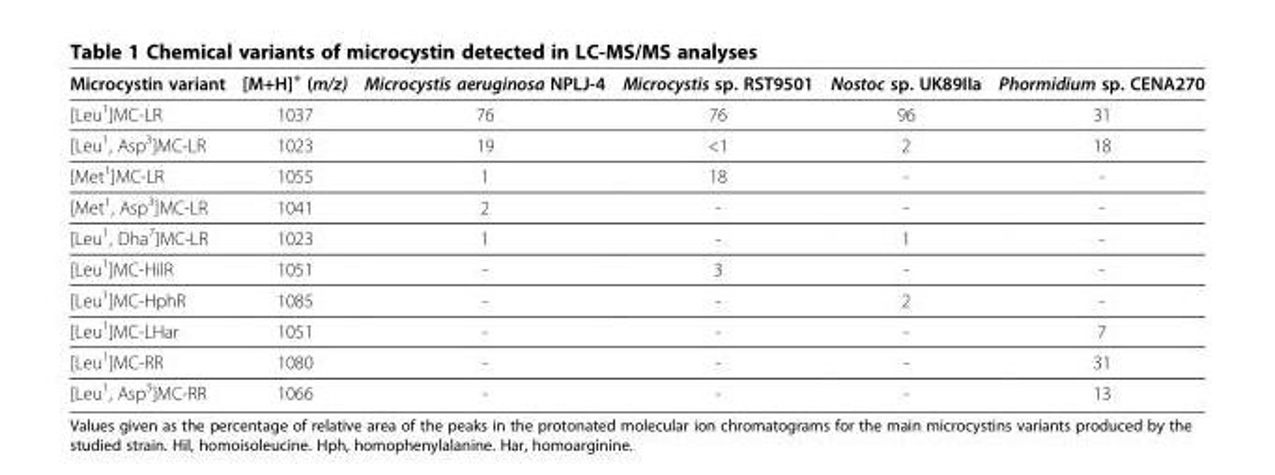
<table><thead><tr><td>Microcystin variant</td><td>[M+H]<sup>+</sup> (m/z)</td><td>Microcystis aeruginosa NPLJ-4</td><td>Microcystis sp. RST9501</td><td>Nostoc sp. UK89IIa</td><td>Phormidium sp. CENA270</td></tr></thead><tbody><tr><td>[Leu<sup>1</sup>]MC-LR</td><td>1037</td><td>76</td><td>76</td><td>96</td><td>31</td></tr><tr><td>[Leu<sup>1</sup>, Asp<sup>3</sup>]MC-LR</td><td>1023</td><td>19</td><td>&lt;1</td><td>2</td><td>18</td></tr><tr><td>[Met<sup>1</sup>]MC-LR</td><td>1055</td><td>1</td><td>18</td><td>-</td><td>-</td></tr><tr><td>[Met<sup>1</sup>, Asp<sup>3</sup>]MC-LR</td><td>1041</td><td>2</td><td>-</td><td>-</td><td>-</td></tr><tr><td>[Leu<sup>1</sup>, Dha<sup>7</sup>]MC-LR</td><td>1023</td><td>1</td><td>-</td><td>1</td><td>-</td></tr><tr><td>[Leu<sup>1</sup>]MC-HilR</td><td>1051</td><td>-</td><td>3</td><td>-</td><td>-</td></tr><tr><td>[Leu<sup>1</sup>]MC-HphR</td><td>1085</td><td>-</td><td>-</td><td>2</td><td>-</td></tr><tr><td>[Leu<sup>1</sup>]MC-LHar</td><td>1051</td><td>-</td><td>-</td><td>-</td><td>7</td></tr><tr><td>[Leu<sup>1</sup>]MC-RR</td><td>1080</td><td>-</td><td>-</td><td>-</td><td>31</td></tr><tr><td>[Leu<sup>1</sup>, Asp<sup>3</sup>]MC-RR</td><td>1066</td><td>-</td><td>-</td><td>-</td><td>13</td></tr></tbody></table>